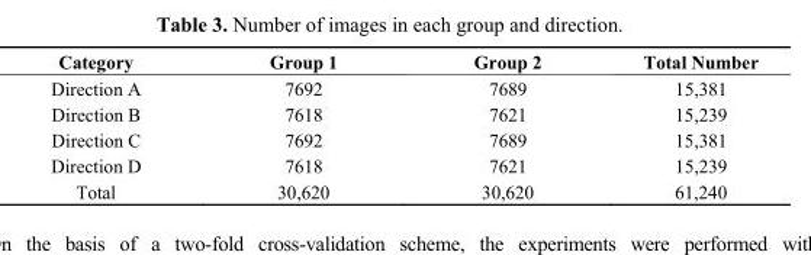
<table><thead><tr><td>Category</td><td>Group 1</td><td>Group 2</td><td>Total Number</td></tr></thead><tbody><tr><td>Direction A</td><td>7692</td><td>7689</td><td>15,381</td></tr><tr><td>Direction B</td><td>7618</td><td>7621</td><td>15,239</td></tr><tr><td>Direction C</td><td>7692</td><td>7689</td><td>15,381</td></tr><tr><td>Direction D</td><td>7618</td><td>7621</td><td>15,239</td></tr><tr><td>Total</td><td>30,620</td><td>30,620</td><td>61,240</td></tr></tbody></table>